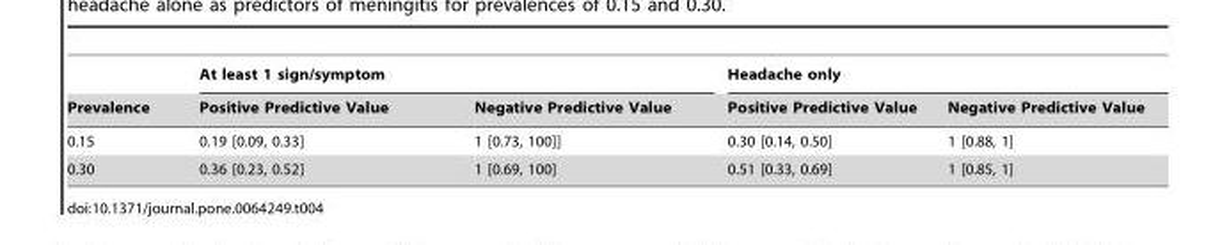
<table><thead><tr><td rowspan="2">Prevalence</td><td colspan="2">At least 1 sign/symptom</td><td colspan="2">Headache only</td></tr><tr><td>Positive Predictive Value</td><td>Negative Predictive Value</td><td>Positive Predictive Value</td><td>Negative Predictive Value</td></tr></thead><tbody><tr><td>0.15</td><td>0.19 [0.09, 0.33]</td><td>1 [0.73, 100]]</td><td>0.30 [0.14, 0.50]</td><td>1 [0.88, 1]</td></tr><tr><td>0.30</td><td>0.36 [0.23, 0.52]</td><td>1 [0.69, 100]</td><td>0.51 [0.33, 0.69]</td><td>1 [0.85, 1]</td></tr></tbody></table>